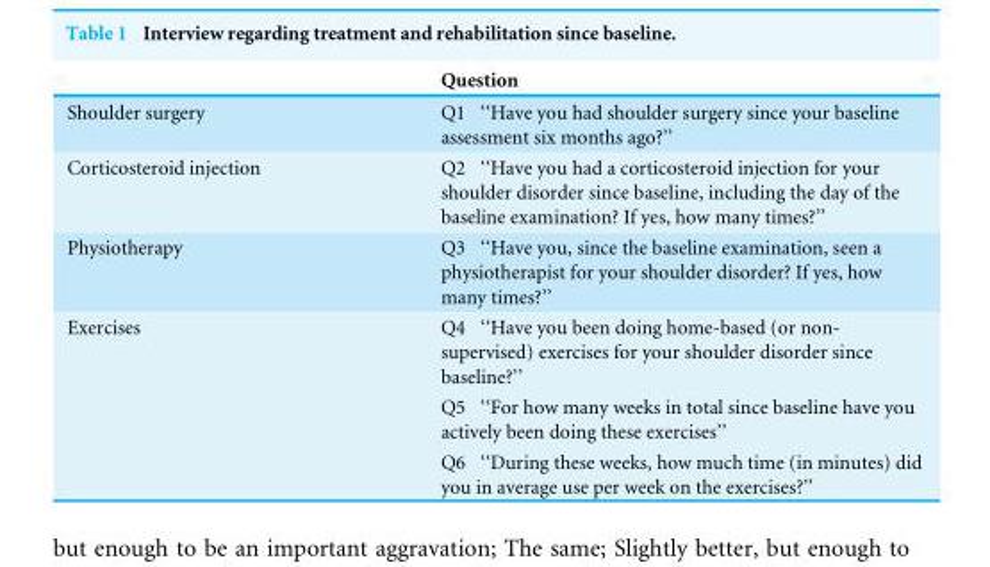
<table><thead><tr><td></td><td>Question</td></tr></thead><tbody><tr><td>Shoulder surgery</td><td>Q1 ‘‘Have you had shoulder surgery since your baseline assessment six months ago?’’</td></tr><tr><td>Corticosteroid injection</td><td>Q2 ‘‘Have you had a corticosteroid injection for your shoulder disorder since baseline, including the day of the baseline examination? If yes, how many times?’’</td></tr><tr><td>Physiotherapy</td><td>Q3 ‘‘Have you, since the baseline examination, seen a physiotherapist for your shoulder disorder? If yes, how many times?’’</td></tr><tr><td rowspan="3">Exercises</td><td>Q4 ‘‘Have you been doing home-based (or non- supervised) exercises for your shoulder disorder since baseline?’’</td></tr><tr><td>Q5 ‘‘For how many weeks in total since baseline have you actively been doing these exercises’’</td></tr><tr><td>Q6 ‘‘During these weeks, how much time (in minutes) did you in average use per week on the exercises?’’</td></tr></tbody></table>